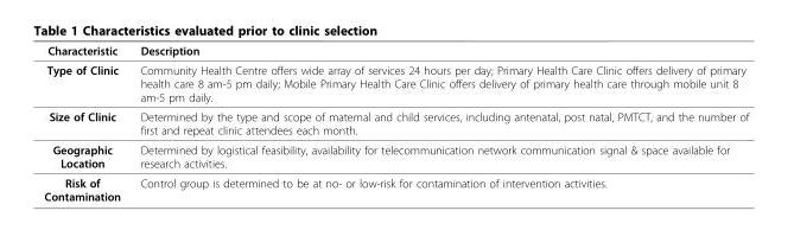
<table><thead><tr><td>Characteristic</td><td>Description</td></tr></thead><tbody><tr><td>Type of Clinic</td><td>Community Health Centre offers wide array of services 24 hours per day; Primary Health Care Clinic offers delivery of primary health care 8 am-5 pm daily; Mobile Primary Health Care Clinic offers delivery of primary health care through mobile unit 8 am-5 pm daily.</td></tr><tr><td>Size of Clinic</td><td>Determined by the type and scope of maternal and child services, including antenatal, post natal, PMTCT, and the number of first and repeat clinic attendees each month.</td></tr><tr><td>Geographic Location</td><td>Determined by logistical feasibility, availability for telecommunication network communication signal &amp; space available for research activities.</td></tr><tr><td>Risk of Contamination</td><td>Control group is determined to be at no- or low-risk for contamination of intervention activities.</td></tr></tbody></table>